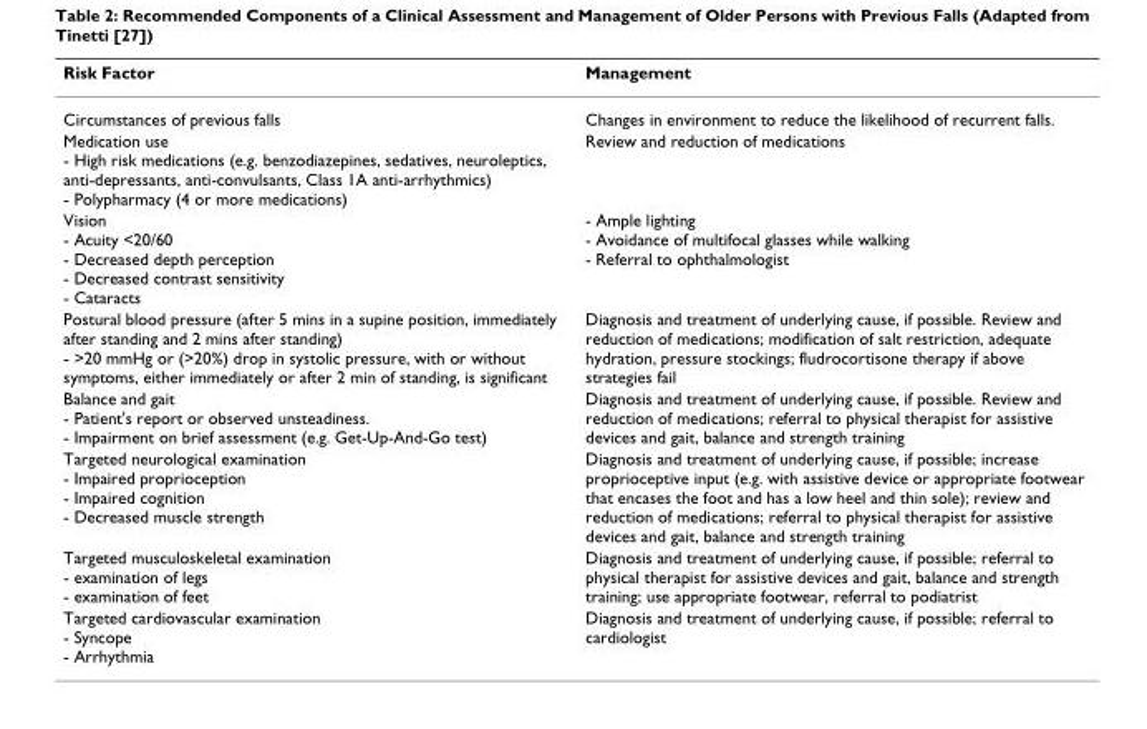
<table><thead><tr><td>Risk Factor</td><td>Management</td></tr></thead><tbody><tr><td>Circumstances of previous falls</td><td>Changes in environment to reduce the likelihood of recurrent falls.</td></tr><tr><td>Medication use - High risk medications (e.g. benzodiazepines, sedatives, neuroleptics, anti-depressants, anti-convulsants, Class 1A anti-arrhythmics) - Polypharmacy (4 or more medications)</td><td>Review and reduction of medications</td></tr><tr><td>Vision - Acuity &lt;20/60 - Decreased depth perception - Decreased contrast sensitivity - Cataracts</td><td>- Ample lighting - Avoidance of multifocal glasses while walking - Referral to ophthalmologist</td></tr><tr><td>Postural blood pressure (after 5 mins in a supine position, immediately after standing and 2 mins after standing) - &gt;20 mmHg or (&gt;20%) drop in systolic pressure, with or without symptoms, either immediately or after 2 min of standing, is significant</td><td>Diagnosis and treatment of underlying cause, if possible. Review and reduction of medications; modification of salt restriction, adequate hydration, pressure stockings; fludrocortisone therapy if above strategies fail</td></tr><tr><td>Balance and gait - Patient&#x27;s report or observed unsteadiness. - Impairment on brief assessment (e.g. Get-Up-And-Go test)</td><td>Diagnosis and treatment of underlying cause, if possible. Review and reduction of medications; referral to physical therapist for assistive devices and gait, balance and strength training</td></tr><tr><td>Targeted neurological examination - Impaired proprioception - Impaired cognition - Decreased muscle strength</td><td>Diagnosis and treatment of underlying cause, if possible; increase proprioceptive input (e.g. with assistive device or appropriate footwear that encases the foot and has a low heel and thin sole); review and reduction of medications; referral to physical therapist for assistive devices and gait, balance and strength training</td></tr><tr><td>Targeted musculoskeletal examination - examination of legs - examination of feet</td><td>Diagnosis and treatment of underlying cause, if possible; referral to physical therapist for assistive devices and gait, balance and strength training; use appropriate footwear, referral to podiatrist</td></tr><tr><td>Targeted cardiovascular examination - Syncope - Arrhythmia</td><td>Diagnosis and treatment of underlying cause, if possible; referral to cardiologist</td></tr></tbody></table>